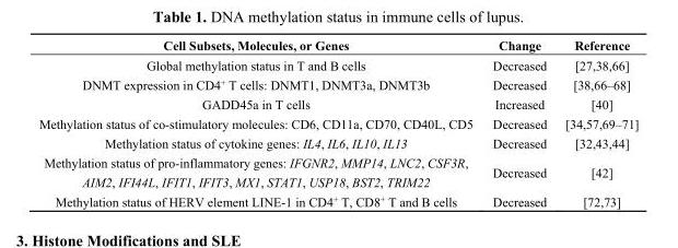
<table><thead><tr><td>Cell Subsets, Molecules, or Genes</td><td>Change</td><td>Reference</td></tr></thead><tbody><tr><td>Global methylation status in T and B cells</td><td>Decreased</td><td>[27,38,66]</td></tr><tr><td>DNMT expression in CD4<sup>+</sup> T cells: DNMT1, DNMT3a, DNMT3b</td><td>Decreased</td><td>[38,66–68]</td></tr><tr><td>GADD45a in T cells</td><td>Increased</td><td>[40]</td></tr><tr><td>Methylation status of co-stimulatory molecules: CD6, CD11a, CD70, CD40L, CD5</td><td>Decreased</td><td>[34,57,69–71]</td></tr><tr><td>Methylation status of cytokine genes: IL4, IL6, IL10, IL13</td><td>Decreased</td><td>[32,43,44]</td></tr><tr><td>Methylation status of pro-inflammatory genes: IFGNR2, MMP14, LNC2, CSF3R, AIM2, IFI44L, IFIT1, IFIT3, MX1, STAT1, USP18, BST2, TRIM22</td><td>Decreased</td><td>[42]</td></tr><tr><td>Methylation status of HERV element LINE-1 in CD4<sup>+</sup> T, CD8<sup>+</sup> T and B cells</td><td>Decreased</td><td>[72,73]</td></tr></tbody></table>